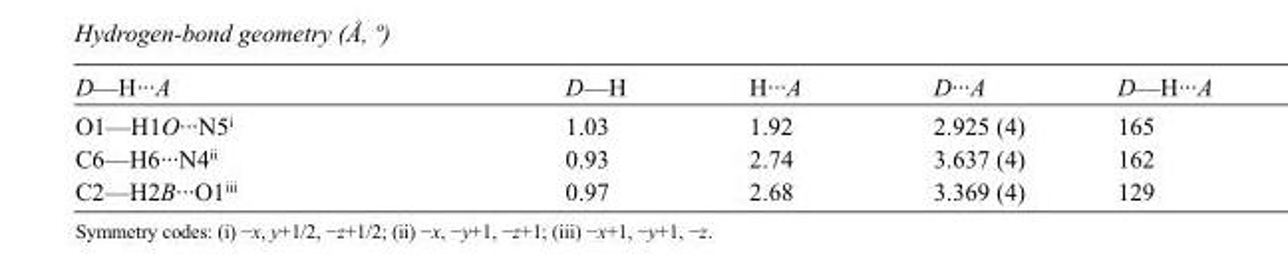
<table><tbody><tr><td>D—H···A</td><td>D—H</td><td>H···A</td><td>D···A</td><td>D—H···A</td></tr><tr><td>O1—H1O···N5<sup>i</sup></td><td>1.03</td><td>1.92</td><td>2.925 (4)</td><td>165</td></tr><tr><td>C6—H6···N4<sup>ii</sup></td><td>0.93</td><td>2.74</td><td>3.637 (4)</td><td>162</td></tr><tr><td>C2—H2B···O1<sup>iii</sup></td><td>0.97</td><td>2.68</td><td>3.369 (4)</td><td>129</td></tr></tbody></table>